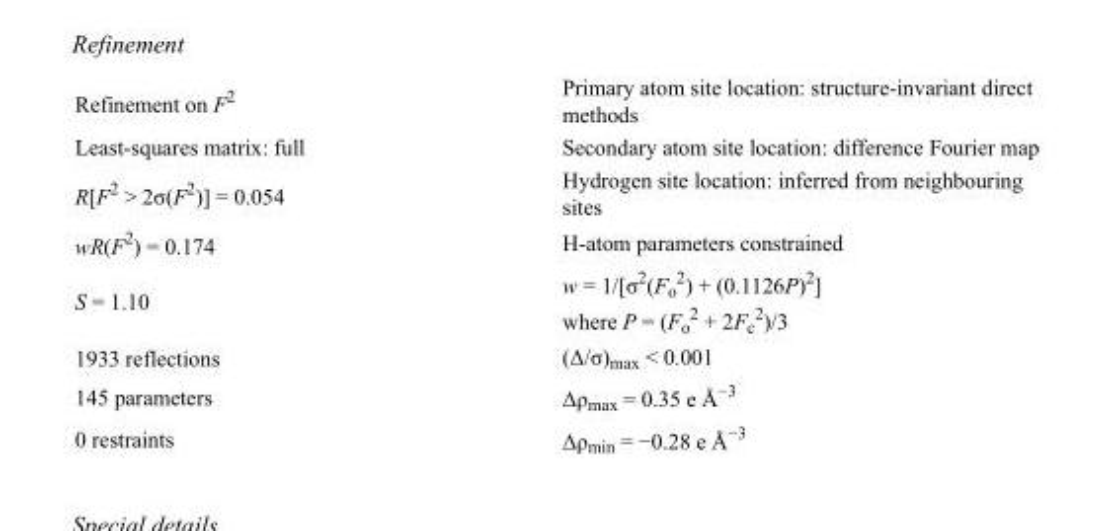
<table><tbody><tr><td>Refinement on F<sup>2</sup></td><td>Primary atom site location: structure-invariant direct methods</td></tr><tr><td>Least-squares matrix: full</td><td>Secondary atom site location: difference Fourier map</td></tr><tr><td>R[F<sup>2</sup> &gt; 2σ(F<sup>2</sup>)] = 0.054</td><td>Hydrogen site location: inferred from neighbouring sites</td></tr><tr><td>wR(F<sup>2</sup>) = 0.174</td><td>H-atom parameters constrained</td></tr><tr><td>S = 1.10</td><td>w = 1/[σ<sup>2</sup>(F<sub>o</sub> <sup>2</sup>) + (0.1126P)<sup>2</sup>] where P = (F<sub>o</sub> <sup>2</sup> + 2F<sub>c</sub> <sup>2</sup>)/3</td></tr><tr><td>1933 reflections</td><td>(Δ/σ)<sub>max</sub> &lt; 0.001</td></tr><tr><td>145 parameters</td><td>Δρ<sub>max</sub> = 0.35 e Å<sup>−3</sup></td></tr><tr><td>0 restraints</td><td>Δρ<sub>min</sub> = −0.28 e Å<sup>−3</sup></td></tr></tbody></table>